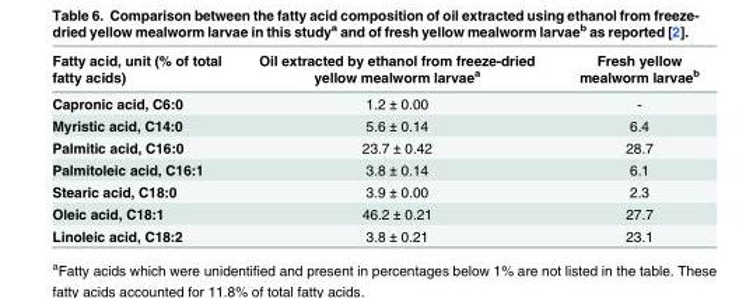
<table><thead><tr><td>Fatty acid, unit (% of total fatty acids)</td><td>Oil extracted by ethanol from freeze-dried yellow mealworm larvae<sup>a</sup></td><td>Fresh yellow mealworm larvae<sup>b</sup></td></tr></thead><tbody><tr><td>Capronic acid, C6:0</td><td>1.2 ± 0.00</td><td>-</td></tr><tr><td>Myristic acid, C14:0</td><td>5.6 ± 0.14</td><td>6.4</td></tr><tr><td>Palmitic acid, C16:0</td><td>23.7 ± 0.42</td><td>28.7</td></tr><tr><td>Palmitoleic acid, C16:1</td><td>3.8 ± 0.14</td><td>6.1</td></tr><tr><td>Stearic acid, C18:0</td><td>3.9 ± 0.00</td><td>2.3</td></tr><tr><td>Oleic acid, C18:1</td><td>46.2 ± 0.21</td><td>27.7</td></tr><tr><td>Linoleic acid, C18:2</td><td>3.8 ± 0.21</td><td>23.1</td></tr></tbody></table>